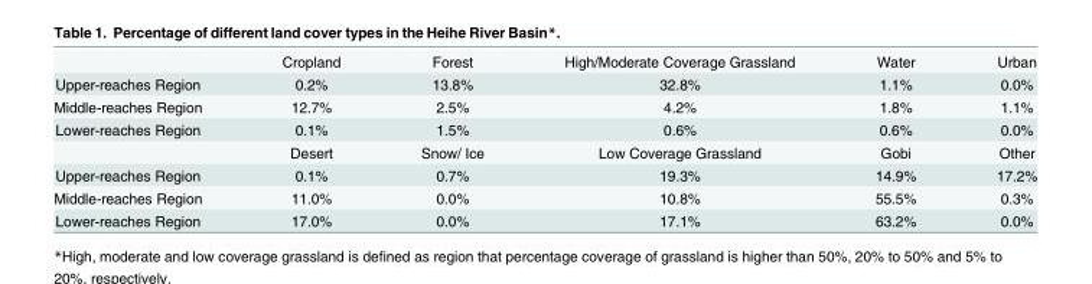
<table><thead><tr><td></td><td>Cropland</td><td>Forest</td><td>High/Moderate Coverage Grassland</td><td>Water</td><td>Urban</td></tr></thead><tbody><tr><td>Upper-reaches Region</td><td>0.2%</td><td>13.8%</td><td>32.8%</td><td>1.1%</td><td>0.0%</td></tr><tr><td>Middle-reaches Region</td><td>12.7%</td><td>2.5%</td><td>4.2%</td><td>1.8%</td><td>1.1%</td></tr><tr><td rowspan="2">Lower-reaches Region</td><td>0.1%</td><td>1.5%</td><td>0.6%</td><td>0.6%</td><td>0.0%</td></tr><tr><td>Desert</td><td>Snow/ Ice</td><td>Low Coverage Grassland</td><td>Gobi</td><td>Other</td></tr><tr><td>Upper-reaches Region</td><td>0.1%</td><td>0.7%</td><td>19.3%</td><td>14.9%</td><td>17.2%</td></tr><tr><td>Middle-reaches Region</td><td>11.0%</td><td>0.0%</td><td>10.8%</td><td>55.5%</td><td>0.3%</td></tr><tr><td>Lower-reaches Region</td><td>17.0%</td><td>0.0%</td><td>17.1%</td><td>63.2%</td><td>0.0%</td></tr></tbody></table>